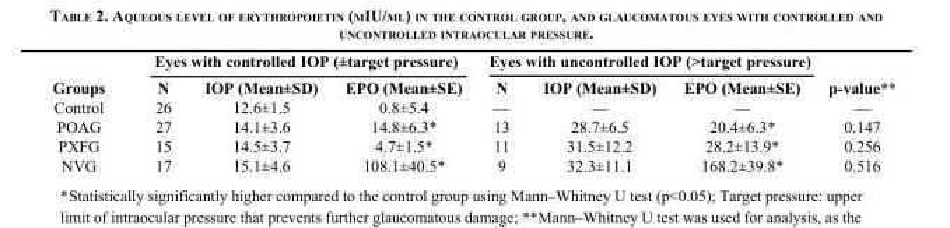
<table><thead><tr><td rowspan="2">Groups</td><td colspan="3">Eyes with controlled IOP (±target pressure)</td><td colspan="3">Eyes with uncontrolled IOP (&gt;target pressure)</td><td rowspan="2">p-value**</td></tr><tr><td>N</td><td>IOP (Mean±SD)</td><td>EPO (Mean±SE)</td><td>N</td><td>IOP (Mean±SD)</td><td>EPO (Mean±SE)</td></tr></thead><tbody><tr><td>Control</td><td>26</td><td>12.6±1.5</td><td>0.8±5.4</td><td>—</td><td>—</td><td>—</td><td>—</td></tr><tr><td>POAG</td><td>27</td><td>14.1±3.6</td><td>14.8±6.3*</td><td>13</td><td>28.7±6.5</td><td>20.4±6.3*</td><td>0.147</td></tr><tr><td>PXFG</td><td>15</td><td>14.5±3.7</td><td>4.7±1.5*</td><td>11</td><td>31.5±12.2</td><td>28.2±13.9*</td><td>0.256</td></tr><tr><td>NVG</td><td>17</td><td>15.1±4.6</td><td>108.1±40.5*</td><td>9</td><td>32.3±11.1</td><td>168.2±39.8*</td><td>0.516</td></tr></tbody></table>